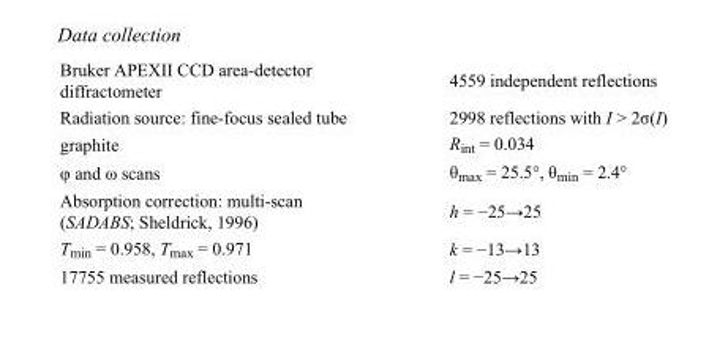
<table><tbody><tr><td>Bruker APEXII CCD area-detector diffractometer</td><td>4559 independent reflections</td></tr><tr><td>Radiation source: fine-focus sealed tube</td><td>2998 reflections with I &gt; 2σ(I)</td></tr><tr><td>graphite</td><td>R<sub>int</sub> = 0.034</td></tr><tr><td>φ and ω scans</td><td>θ<sub>max</sub> = 25.5°, θ<sub>min</sub> = 2.4°</td></tr><tr><td>Absorption correction: multi-scan (SADABS; Sheldrick, 1996)</td><td>h = −25→25</td></tr><tr><td>T<sub>min</sub> = 0.958, T<sub>max</sub> = 0.971</td><td>k = −13→13</td></tr><tr><td>17755 measured reflections</td><td>l = −25→25</td></tr></tbody></table>